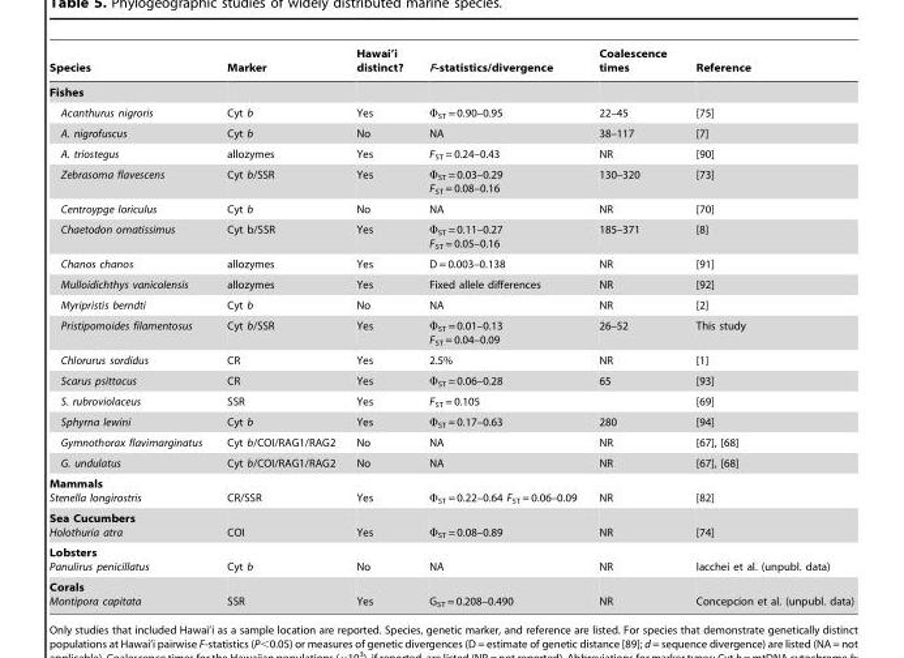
<table><thead><tr><td>Species</td><td>Marker</td><td>Hawai’i distinct?</td><td>F-statistics/divergence</td><td>Coalescence times</td><td>Reference</td></tr></thead><tbody><tr><td colspan="6">Fishes</td></tr><tr><td>Acanthurus nigroris</td><td>Cyt b</td><td>Yes</td><td>Φ<sub>ST</sub> = 0.90–0.95</td><td>22–45</td><td>[75]</td></tr><tr><td>A. nigrofuscus</td><td>Cyt b</td><td>No</td><td>NA</td><td>38–117</td><td>[7]</td></tr><tr><td>A. triostegus</td><td>allozymes</td><td>Yes</td><td>F<sub>ST</sub> = 0.24–0.43</td><td>NR</td><td>[90]</td></tr><tr><td>Zebrasoma flavescens</td><td>Cyt b/SSR</td><td>Yes</td><td>Φ<sub>ST</sub> = 0.03–0.29 F<sub>ST</sub> = 0.08–0.16</td><td>130–320</td><td>[73]</td></tr><tr><td>Centroypge loriculus</td><td>Cyt b</td><td>No</td><td>NA</td><td>NR</td><td>[70]</td></tr><tr><td>Chaetodon ornatissimus</td><td>Cyt b/SSR</td><td>Yes</td><td>Φ<sub>ST</sub> = 0.11–0.27 F<sub>ST</sub> = 0.05–0.16</td><td>185–371</td><td>[8]</td></tr><tr><td>Chanos chanos</td><td>allozymes</td><td>Yes</td><td>D = 0.003–0.138</td><td>NR</td><td>[91]</td></tr><tr><td>Mulloidichthys vanicolensis</td><td>allozymes</td><td>Yes</td><td>Fixed allele differences</td><td>NR</td><td>[92]</td></tr><tr><td>Myripristis berndti</td><td>Cyt b</td><td>No</td><td>NA</td><td>NR</td><td>[2]</td></tr><tr><td>Pristipomoides filamentosus</td><td>Cyt b/SSR</td><td>Yes</td><td>Φ<sub>ST</sub> = 0.01–0.13 F<sub>ST</sub> = 0.04–0.09</td><td>26–52</td><td>This study</td></tr><tr><td>Chlorurus sordidus</td><td>CR</td><td>Yes</td><td>2.5%</td><td>NR</td><td>[1]</td></tr><tr><td>Scarus psittacus</td><td>CR</td><td>Yes</td><td>Φ<sub>ST</sub> = 0.06–0.28</td><td>65</td><td>[93]</td></tr><tr><td>S. rubroviolaceus</td><td>SSR</td><td>Yes</td><td>F<sub>ST</sub> = 0.105</td><td></td><td>[69]</td></tr><tr><td>Sphyrna lewini</td><td>Cyt b</td><td>Yes</td><td>Φ<sub>ST</sub> = 0.17–0.63</td><td>280</td><td>[94]</td></tr><tr><td>Gymnothorax flavimarginatus</td><td>Cyt b/COI/RAG1/RAG2</td><td>No</td><td>NA</td><td>NR</td><td>[67], [68]</td></tr><tr><td>G. undulatus</td><td>Cyt b/COI/RAG1/RAG2</td><td>No</td><td>NA</td><td>NR</td><td>[67], [68]</td></tr><tr><td>Mammals Stenella longirostris</td><td>CR/SSR</td><td>Yes</td><td>Φ<sub>ST</sub> = 0.22–0.64 F<sub>ST</sub> = 0.06–0.09</td><td>NR</td><td>[82]</td></tr><tr><td>Sea Cucumbers Holothuria atra</td><td>COI</td><td>Yes</td><td>Φ<sub>ST</sub> = 0.08–0.89</td><td>NR</td><td>[74]</td></tr><tr><td>Lobsters Panulirus penicillatus</td><td>Cyt b</td><td>No</td><td>NA</td><td>NR</td><td>Iacchei et al. (unpubl. data)</td></tr><tr><td>Corals Montipora capitata</td><td>SSR</td><td>Yes</td><td>G<sub>ST</sub> = 0.208–0.490</td><td>NR</td><td>Concepcion et al. (unpubl. data)</td></tr></tbody></table>